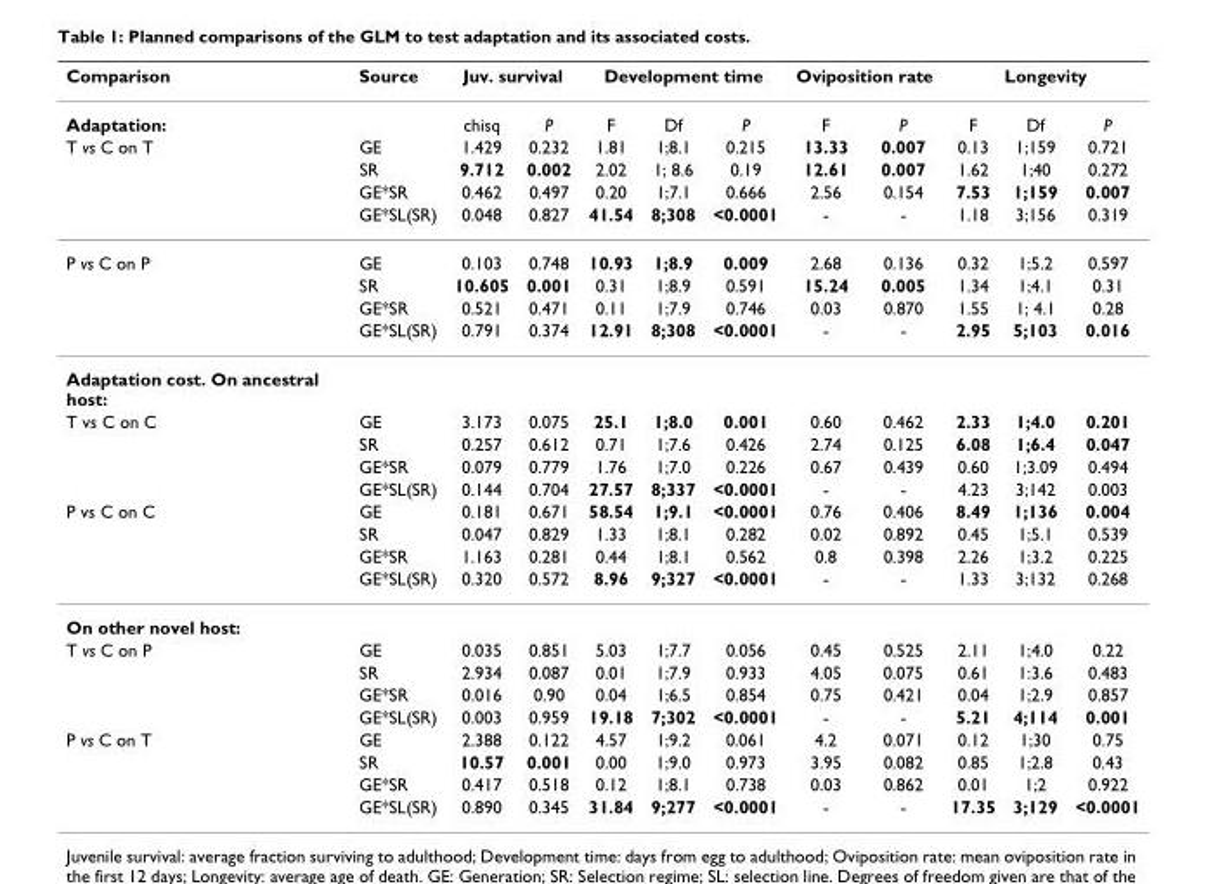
<table><thead><tr><td rowspan="2">Comparison Adaptation:</td><td rowspan="2">Source</td><td colspan="2">Juv. survival</td><td colspan="3">Development time</td><td colspan="2">Oviposition rate</td><td colspan="3">Longevity</td></tr><tr><td>chisq</td><td>P</td><td>F</td><td>Df</td><td>P</td><td>F</td><td>P</td><td>F</td><td>Df</td><td>P</td></tr></thead><tbody><tr><td rowspan="4">T vs C on T</td><td>GE</td><td>1.429</td><td>0.232</td><td>1.81</td><td>1;8.1</td><td>0.215</td><td>13.33</td><td>0.007</td><td>0.13</td><td>1;159</td><td>0.721</td></tr><tr><td>SR</td><td>9.712</td><td>0.002</td><td>2.02</td><td>1; 8.6</td><td>0.19</td><td>12.61</td><td>0.007</td><td>1.62</td><td>1;40</td><td>0.272</td></tr><tr><td>GE*SR</td><td>0.462</td><td>0.497</td><td>0.20</td><td>1;7.1</td><td>0.666</td><td>2.56</td><td>0.154</td><td>7.53</td><td>1;159</td><td>0.007</td></tr><tr><td>GE*SL(SR)</td><td>0.048</td><td>0.827</td><td>41.54</td><td>8;308</td><td>&lt;0.0001</td><td>-</td><td>-</td><td>1.18</td><td>3;156</td><td>0.319</td></tr><tr><td rowspan="4">P vs C on P</td><td>GE</td><td>0.103</td><td>0.748</td><td>10.93</td><td>1;8.9</td><td>0.009</td><td>2.68</td><td>0.136</td><td>0.32</td><td>1;5.2</td><td>0.597</td></tr><tr><td>SR</td><td>10.605</td><td>0.001</td><td>0.31</td><td>1;8.9</td><td>0.591</td><td>15.24</td><td>0.005</td><td>1.34</td><td>1;4.1</td><td>0.31</td></tr><tr><td>GE*SR</td><td>0.521</td><td>0.471</td><td>0.11</td><td>1;7.9</td><td>0.746</td><td>0.03</td><td>0.870</td><td>1.55</td><td>1; 4.1</td><td>0.28</td></tr><tr><td>GE*SL(SR)</td><td>0.791</td><td>0.374</td><td>12.91</td><td>8;308</td><td>&lt;0.0001</td><td>-</td><td>-</td><td>2.95</td><td>5;103</td><td>0.016</td></tr><tr><td colspan="12">Adaptation cost. On ancestral host:</td></tr><tr><td rowspan="4">T vs C on C</td><td>GE</td><td>3.173</td><td>0.075</td><td>25.1</td><td>1;8.0</td><td>0.001</td><td>0.60</td><td>0.462</td><td>2.33</td><td>1;4.0</td><td>0.201</td></tr><tr><td>SR</td><td>0.257</td><td>0.612</td><td>0.71</td><td>1;7.6</td><td>0.426</td><td>2.74</td><td>0.125</td><td>6.08</td><td>1;6.4</td><td>0.047</td></tr><tr><td>GE*SR</td><td>0.079</td><td>0.779</td><td>1.76</td><td>1;7.0</td><td>0.226</td><td>0.67</td><td>0.439</td><td>0.60</td><td>1;3.09</td><td>0.494</td></tr><tr><td>GE*SL(SR)</td><td>0.144</td><td>0.704</td><td>27.57</td><td>8;337</td><td>&lt;0.0001</td><td>-</td><td>-</td><td>4.23</td><td>3;142</td><td>0.003</td></tr><tr><td rowspan="4">P vs C on C</td><td>GE</td><td>0.181</td><td>0.671</td><td>58.54</td><td>1;9.1</td><td>&lt;0.0001</td><td>0.76</td><td>0.406</td><td>8.49</td><td>1;136</td><td>0.004</td></tr><tr><td>SR</td><td>0.047</td><td>0.829</td><td>1.33</td><td>1;8.1</td><td>0.282</td><td>0.02</td><td>0.892</td><td>0.45</td><td>1;5.1</td><td>0.539</td></tr><tr><td>GE*SR</td><td>1.163</td><td>0.281</td><td>0.44</td><td>1;8.1</td><td>0.562</td><td>0.8</td><td>0.398</td><td>2.26</td><td>1;3.2</td><td>0.225</td></tr><tr><td>GE*SL(SR)</td><td>0.320</td><td>0.572</td><td>8.96</td><td>9;327</td><td>&lt;0.0001</td><td>-</td><td>-</td><td>1.33</td><td>3;132</td><td>0.268</td></tr><tr><td colspan="12">On other novel host:</td></tr><tr><td rowspan="4">T vs C on P</td><td>GE</td><td>0.035</td><td>0.851</td><td>5.03</td><td>1;7.7</td><td>0.056</td><td>0.45</td><td>0.525</td><td>2.11</td><td>1;4.0</td><td>0.22</td></tr><tr><td>SR</td><td>2.934</td><td>0.087</td><td>0.01</td><td>1;7.9</td><td>0.933</td><td>4.05</td><td>0.075</td><td>0.61</td><td>1:3.6</td><td>0.483</td></tr><tr><td>GE*SR</td><td>0.016</td><td>0.90</td><td>0.04</td><td>1;6.5</td><td>0.854</td><td>0.75</td><td>0.421</td><td>0.04</td><td>1;2.9</td><td>0.857</td></tr><tr><td>GE*SL(SR)</td><td>0.003</td><td>0.959</td><td>19.18</td><td>7;302</td><td>&lt;0.0001</td><td>-</td><td>-</td><td>5.21</td><td>4;114</td><td>0.001</td></tr><tr><td rowspan="4">P vs C on T</td><td>GE</td><td>2.388</td><td>0.122</td><td>4.57</td><td>1;9.2</td><td>0.061</td><td>4.2</td><td>0.071</td><td>0.12</td><td>1;30</td><td>0.75</td></tr><tr><td>SR</td><td>10.57</td><td>0.001</td><td>0.00</td><td>1;9.0</td><td>0.973</td><td>3.95</td><td>0.082</td><td>0.85</td><td>1;2.8</td><td>0.43</td></tr><tr><td>GE*SR</td><td>0.417</td><td>0.518</td><td>0.12</td><td>1;8.1</td><td>0.738</td><td>0.03</td><td>0.862</td><td>0.01</td><td>1;2</td><td>0.922</td></tr><tr><td>GE*SL(SR)</td><td>0.890</td><td>0.345</td><td>31.84</td><td>9;277</td><td>&lt;0.0001</td><td>-</td><td>-</td><td>17.35</td><td>3;129</td><td>&lt;0.0001</td></tr></tbody></table>